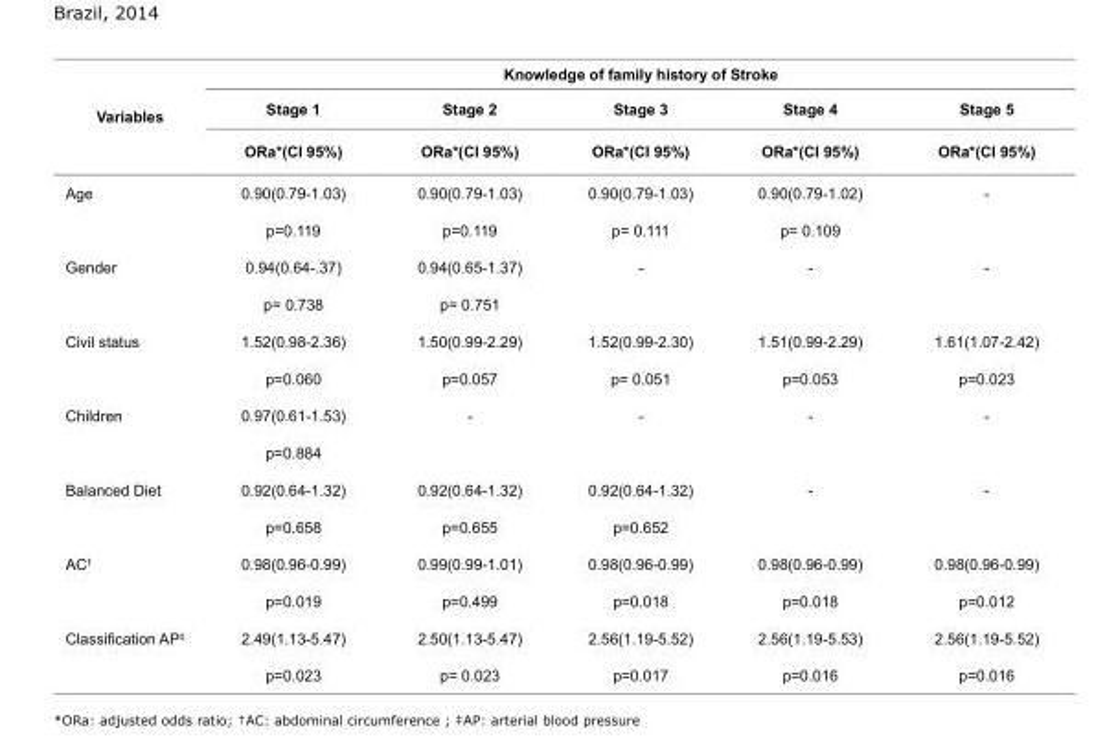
<table><tbody><tr><td rowspan="3">Variables</td><td colspan="5">Knowledge of family history of Stroke</td></tr><tr><td>Stage 1</td><td>Stage 2</td><td>Stage 3</td><td>Stage 4</td><td>Stage 5</td></tr><tr><td>ORa*(CI 95%)</td><td>ORa*(CI 95%)</td><td>ORa*(CI 95%)</td><td>ORa*(CI 95%)</td><td>ORa*(CI 95%)</td></tr><tr><td rowspan="2">Age</td><td>0.90(0.79-1.03)</td><td>0.90(0.79-1.03)</td><td>0.90(0.79-1.03)</td><td>0.90(0.79-1.02)</td><td>-</td></tr><tr><td>p=0.119</td><td>p=0.119</td><td>p= 0.111</td><td>p= 0.109</td><td></td></tr><tr><td rowspan="2">Gender</td><td>0.94(0.64-.37)</td><td>0.94(0.65-1.37)</td><td>-</td><td>-</td><td>-</td></tr><tr><td>p= 0.738</td><td>p= 0.751</td><td></td><td></td><td></td></tr><tr><td rowspan="2">Civil status</td><td>1.52(0.98-2.36)</td><td>1.50(0.99-2.29)</td><td>1.52(0.99-2.30)</td><td>1.51(0.99-2.29)</td><td>1.61(1.07-2.42)</td></tr><tr><td>p=0.060</td><td>p=0.057</td><td>p= 0.051</td><td>p=0.053</td><td>p=0.023</td></tr><tr><td rowspan="2">Children</td><td>0.97(0.61-1.53)</td><td>-</td><td>-</td><td>-</td><td>-</td></tr><tr><td>p=0.884</td><td></td><td></td><td></td><td></td></tr><tr><td rowspan="2">Balanced Diet</td><td>0.92(0.64-1.32)</td><td>0.92(0.64-1.32)</td><td>0.92(0.64-1.32)</td><td>-</td><td>-</td></tr><tr><td>p=0.658</td><td>p=0.655</td><td>p=0.652</td><td></td><td></td></tr><tr><td rowspan="2">AC<sup>†</sup></td><td>0.98(0.96-0.99)</td><td>0.99(0.99-1.01)</td><td>0.98(0.96-0.99)</td><td>0.98(0.96-0.99)</td><td>0.98(0.96-0.99)</td></tr><tr><td>p=0.019</td><td>p=0.499</td><td>p=0.018</td><td>p=0.018</td><td>p=0.012</td></tr><tr><td rowspan="2">Classification AP<sup>‡</sup></td><td>2.49(1.13-5.47)</td><td>2.50(1.13-5.47)</td><td>2.56(1.19-5.52)</td><td>2.56(1.19-5.53)</td><td>2.56(1.19-5.52)</td></tr><tr><td>p=0.023</td><td>p= 0.023</td><td>p=0.017</td><td>p=0.016</td><td>p=0.016</td></tr></tbody></table>